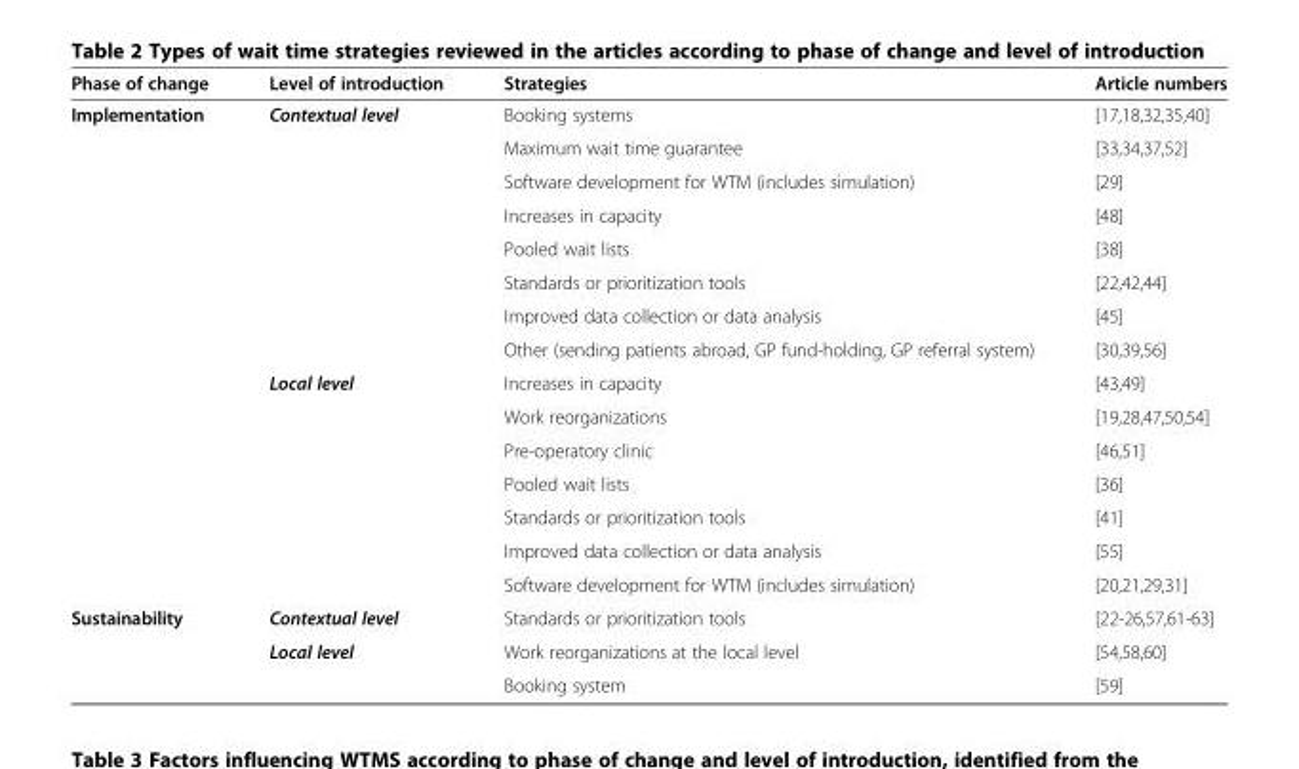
<table><thead><tr><td>Phase of change</td><td>Level of introduction</td><td>Strategies</td><td>Article numbers</td></tr></thead><tbody><tr><td rowspan="15">Implementation</td><td rowspan="8">Contextual level</td><td>Booking systems</td><td>[17,18,32,35,40]</td></tr><tr><td>Maximum wait time guarantee</td><td>[33,34,37,52]</td></tr><tr><td>Software development for WTM (includes simulation)</td><td>[29]</td></tr><tr><td>Increases in capacity</td><td>[48]</td></tr><tr><td>Pooled wait lists</td><td>[38]</td></tr><tr><td>Standards or prioritization tools</td><td>[22,42,44]</td></tr><tr><td>Improved data collection or data analysis</td><td>[45]</td></tr><tr><td>Other (sending patients abroad, GP fund-holding, GP referral system)</td><td>[30,39,56]</td></tr><tr><td rowspan="7">Local level</td><td>Increases in capacity</td><td>[43,49]</td></tr><tr><td>Work reorganizations</td><td>[19,28,47,50,54]</td></tr><tr><td>Pre-operatory clinic</td><td>[46,51]</td></tr><tr><td>Pooled wait lists</td><td>[36]</td></tr><tr><td>Standards or prioritization tools</td><td>[41]</td></tr><tr><td>Improved data collection or data analysis</td><td>[55]</td></tr><tr><td>Software development for WTM (includes simulation)</td><td>[20,21,29,31]</td></tr><tr><td rowspan="3">Sustainability</td><td>Contextual level</td><td>Standards or prioritization tools</td><td>[22-26,57,61-63]</td></tr><tr><td>Local level</td><td>Work reorganizations at the local level</td><td>[54,58,60]</td></tr><tr><td></td><td>Booking system</td><td>[59]</td></tr></tbody></table>